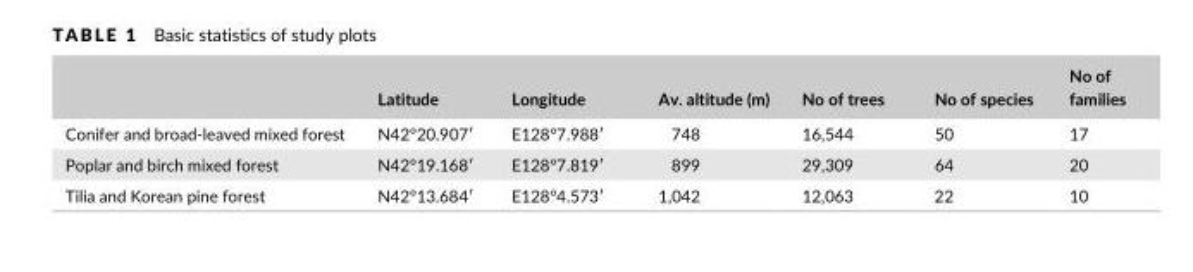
<table><thead><tr><td></td><td>Latitude</td><td>Longitude</td><td>Av. altitude (m)</td><td>No of trees</td><td>No of species</td><td>No of families</td></tr></thead><tbody><tr><td>Conifer and broad- leaved mixed forest</td><td>N42°20.907′</td><td>E128°7.988′</td><td>748</td><td>16,544</td><td>50</td><td>17</td></tr><tr><td>Poplar and birch mixed forest</td><td>N42°19.168′</td><td>E128°7.819′</td><td>899</td><td>29,309</td><td>64</td><td>20</td></tr><tr><td>Tilia and Korean pine forest</td><td>N42°13.684′</td><td>E128°4.573′</td><td>1,042</td><td>12,063</td><td>22</td><td>10</td></tr></tbody></table>